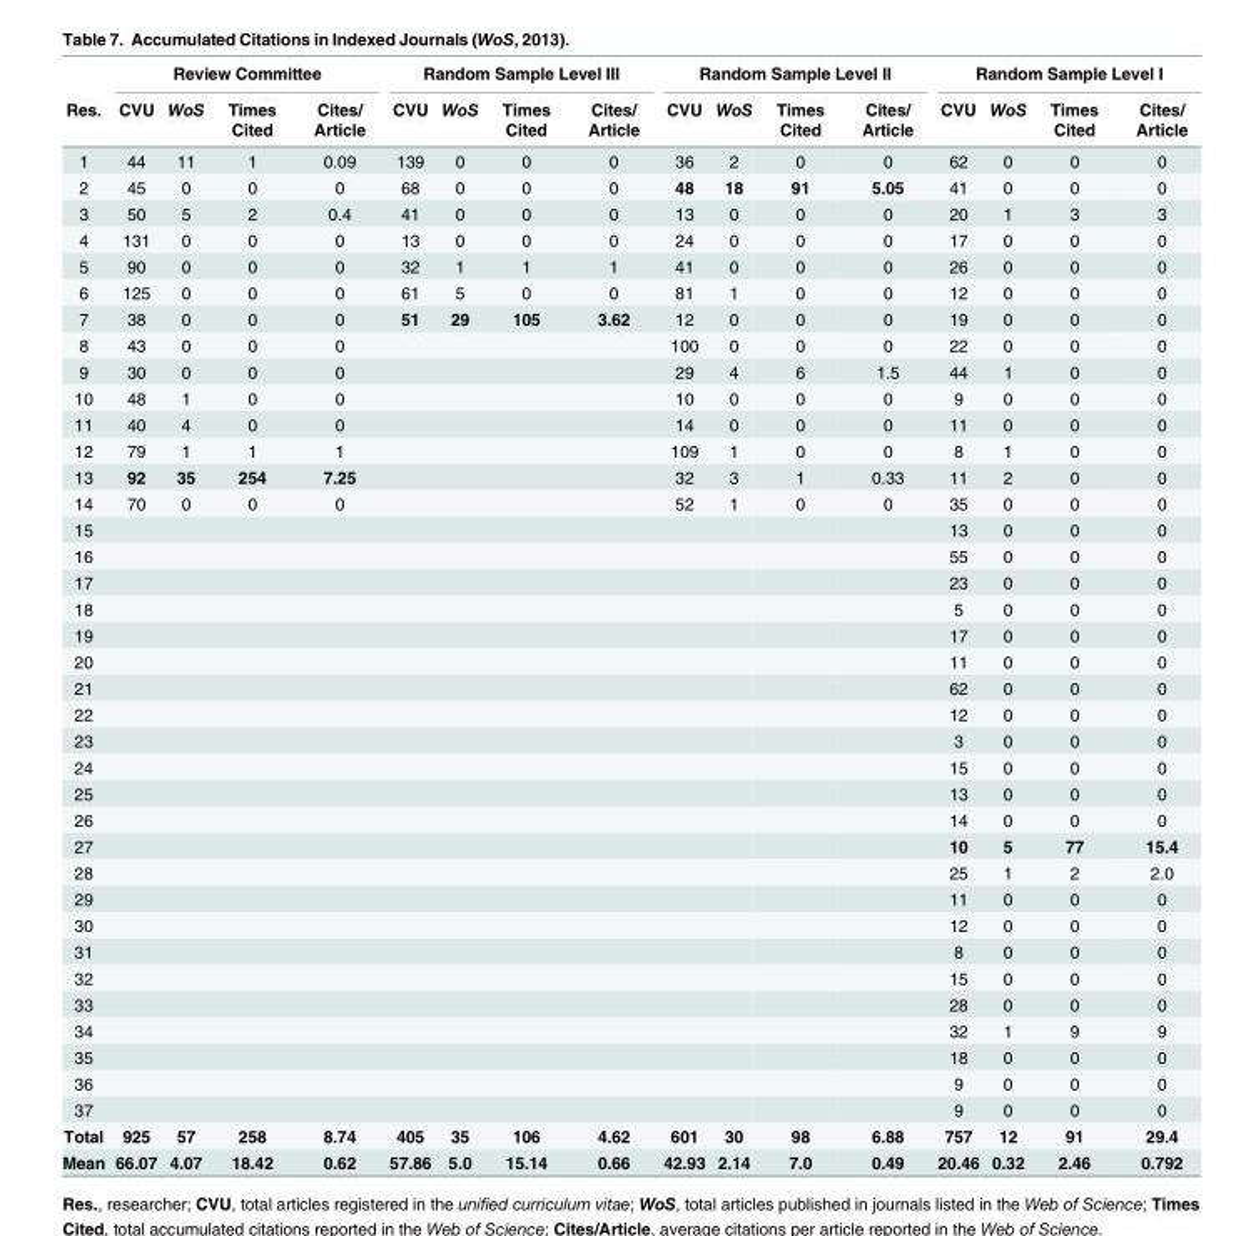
<table><thead><tr><td rowspan="2">Res.</td><td colspan="4">Review Committee</td><td colspan="4">Random Sample Level III</td><td colspan="4">Random Sample Level II</td><td colspan="4">Random Sample Level I</td></tr><tr><td>CVU</td><td>WoS</td><td>Times Cited</td><td>Cites/ Article</td><td>CVU</td><td>WoS</td><td>Times Cited</td><td>Cites/ Article</td><td>CVU</td><td>WoS</td><td>Times Cited</td><td>Cites/ Article</td><td>CVU</td><td>WoS</td><td>Times Cited</td><td>Cites/ Article</td></tr></thead><tbody><tr><td>1</td><td>44</td><td>11</td><td>1</td><td>0.09</td><td>139</td><td>0</td><td>0</td><td>0</td><td>36</td><td>2</td><td>0</td><td>0</td><td>62</td><td>0</td><td>0</td><td>0</td></tr><tr><td>2</td><td>45</td><td>0</td><td>0</td><td>0</td><td>68</td><td>0</td><td>0</td><td>0</td><td>48</td><td>18</td><td>91</td><td>5.05</td><td>41</td><td>0</td><td>0</td><td>0</td></tr><tr><td>3</td><td>50</td><td>5</td><td>2</td><td>0.4</td><td>41</td><td>0</td><td>0</td><td>0</td><td>13</td><td>0</td><td>0</td><td>0</td><td>20</td><td>1</td><td>3</td><td>3</td></tr><tr><td>4</td><td>131</td><td>0</td><td>0</td><td>0</td><td>13</td><td>0</td><td>0</td><td>0</td><td>24</td><td>0</td><td>0</td><td>0</td><td>17</td><td>0</td><td>0</td><td>0</td></tr><tr><td>5</td><td>90</td><td>0</td><td>0</td><td>0</td><td>32</td><td>1</td><td>1</td><td>1</td><td>41</td><td>0</td><td>0</td><td>0</td><td>26</td><td>0</td><td>0</td><td>0</td></tr><tr><td>6</td><td>125</td><td>0</td><td>0</td><td>0</td><td>61</td><td>5</td><td>0</td><td>0</td><td>81</td><td>1</td><td>0</td><td>0</td><td>12</td><td>0</td><td>0</td><td>0</td></tr><tr><td>7</td><td>38</td><td>0</td><td>0</td><td>0</td><td>51</td><td>29</td><td>105</td><td>3.62</td><td>12</td><td>0</td><td>0</td><td>0</td><td>19</td><td>0</td><td>0</td><td>0</td></tr><tr><td>8</td><td>43</td><td>0</td><td>0</td><td>0</td><td></td><td></td><td></td><td></td><td>100</td><td>0</td><td>0</td><td>0</td><td>22</td><td>0</td><td>0</td><td>0</td></tr><tr><td>9</td><td>30</td><td>0</td><td>0</td><td>0</td><td></td><td></td><td></td><td></td><td>29</td><td>4</td><td>6</td><td>1.5</td><td>44</td><td>1</td><td>0</td><td>0</td></tr><tr><td>10</td><td>48</td><td>1</td><td>0</td><td>0</td><td></td><td></td><td></td><td></td><td>10</td><td>0</td><td>0</td><td>0</td><td>9</td><td>0</td><td>0</td><td>0</td></tr><tr><td>11</td><td>40</td><td>4</td><td>0</td><td>0</td><td></td><td></td><td></td><td></td><td>14</td><td>0</td><td>0</td><td>0</td><td>11</td><td>0</td><td>0</td><td>0</td></tr><tr><td>12</td><td>79</td><td>1</td><td>1</td><td>1</td><td></td><td></td><td></td><td></td><td>109</td><td>1</td><td>0</td><td>0</td><td>8</td><td>1</td><td>0</td><td>0</td></tr><tr><td>13</td><td>92</td><td>35</td><td>254</td><td>7.25</td><td></td><td></td><td></td><td></td><td>32</td><td>3</td><td>1</td><td>0.33</td><td>11</td><td>2</td><td>0</td><td>0</td></tr><tr><td>14</td><td>70</td><td>0</td><td>0</td><td>0</td><td></td><td></td><td></td><td></td><td>52</td><td>1</td><td>0</td><td>0</td><td>35</td><td>0</td><td>0</td><td>0</td></tr><tr><td>15</td><td></td><td></td><td></td><td></td><td></td><td></td><td></td><td></td><td></td><td></td><td></td><td></td><td>13</td><td>0</td><td>0</td><td>0</td></tr><tr><td>16</td><td></td><td></td><td></td><td></td><td></td><td></td><td></td><td></td><td></td><td></td><td></td><td></td><td>55</td><td>0</td><td>0</td><td>0</td></tr><tr><td>17</td><td></td><td></td><td></td><td></td><td></td><td></td><td></td><td></td><td></td><td></td><td></td><td></td><td>23</td><td>0</td><td>0</td><td>0</td></tr><tr><td>18</td><td></td><td></td><td></td><td></td><td></td><td></td><td></td><td></td><td></td><td></td><td></td><td></td><td>5</td><td>0</td><td>0</td><td>0</td></tr><tr><td>19</td><td></td><td></td><td></td><td></td><td></td><td></td><td></td><td></td><td></td><td></td><td></td><td></td><td>17</td><td>0</td><td>0</td><td>0</td></tr><tr><td>20</td><td></td><td></td><td></td><td></td><td></td><td></td><td></td><td></td><td></td><td></td><td></td><td></td><td>11</td><td>0</td><td>0</td><td>0</td></tr><tr><td>21</td><td></td><td></td><td></td><td></td><td></td><td></td><td></td><td></td><td></td><td></td><td></td><td></td><td>62</td><td>0</td><td>0</td><td>0</td></tr><tr><td>22</td><td></td><td></td><td></td><td></td><td></td><td></td><td></td><td></td><td></td><td></td><td></td><td></td><td>12</td><td>0</td><td>0</td><td>0</td></tr><tr><td>23</td><td></td><td></td><td></td><td></td><td></td><td></td><td></td><td></td><td></td><td></td><td></td><td></td><td>3</td><td>0</td><td>0</td><td>0</td></tr><tr><td>24</td><td></td><td></td><td></td><td></td><td></td><td></td><td></td><td></td><td></td><td></td><td></td><td></td><td>15</td><td>0</td><td>0</td><td>0</td></tr><tr><td>25</td><td></td><td></td><td></td><td></td><td></td><td></td><td></td><td></td><td></td><td></td><td></td><td></td><td>13</td><td>0</td><td>0</td><td>0</td></tr><tr><td>26</td><td></td><td></td><td></td><td></td><td></td><td></td><td></td><td></td><td></td><td></td><td></td><td></td><td>14</td><td>0</td><td>0</td><td>0</td></tr><tr><td>27</td><td></td><td></td><td></td><td></td><td></td><td></td><td></td><td></td><td></td><td></td><td></td><td></td><td>10</td><td>5</td><td>77</td><td>15.4</td></tr><tr><td>28</td><td></td><td></td><td></td><td></td><td></td><td></td><td></td><td></td><td></td><td></td><td></td><td></td><td>25</td><td>1</td><td>2</td><td>2.0</td></tr><tr><td>29</td><td></td><td></td><td></td><td></td><td></td><td></td><td></td><td></td><td></td><td></td><td></td><td></td><td>11</td><td>0</td><td>0</td><td>0</td></tr><tr><td>30</td><td></td><td></td><td></td><td></td><td></td><td></td><td></td><td></td><td></td><td></td><td></td><td></td><td>12</td><td>0</td><td>0</td><td>0</td></tr><tr><td>31</td><td></td><td></td><td></td><td></td><td></td><td></td><td></td><td></td><td></td><td></td><td></td><td></td><td>8</td><td>0</td><td>0</td><td>0</td></tr><tr><td>32</td><td></td><td></td><td></td><td></td><td></td><td></td><td></td><td></td><td></td><td></td><td></td><td></td><td>15</td><td>0</td><td>0</td><td>0</td></tr><tr><td>33</td><td></td><td></td><td></td><td></td><td></td><td></td><td></td><td></td><td></td><td></td><td></td><td></td><td>28</td><td>0</td><td>0</td><td>0</td></tr><tr><td>34</td><td></td><td></td><td></td><td></td><td></td><td></td><td></td><td></td><td></td><td></td><td></td><td></td><td>32</td><td>1</td><td>9</td><td>9</td></tr><tr><td>35</td><td></td><td></td><td></td><td></td><td></td><td></td><td></td><td></td><td></td><td></td><td></td><td></td><td>18</td><td>0</td><td>0</td><td>0</td></tr><tr><td>36</td><td></td><td></td><td></td><td></td><td></td><td></td><td></td><td></td><td></td><td></td><td></td><td></td><td>9</td><td>0</td><td>0</td><td>0</td></tr><tr><td>37</td><td></td><td></td><td></td><td></td><td></td><td></td><td></td><td></td><td></td><td></td><td></td><td></td><td>9</td><td>0</td><td>0</td><td>0</td></tr><tr><td>Total</td><td>925</td><td>57</td><td>258</td><td>8.74</td><td>405</td><td>35</td><td>106</td><td>4.62</td><td>601</td><td>30</td><td>98</td><td>6.88</td><td>757</td><td>12</td><td>91</td><td>29.4</td></tr><tr><td>Mean</td><td>66.07</td><td>4.07</td><td>18.42</td><td>0.62</td><td>57.86</td><td>5.0</td><td>15.14</td><td>0.66</td><td>42.93</td><td>2.14</td><td>7.0</td><td>0.49</td><td>20.46</td><td>0.32</td><td>2.46</td><td>0.792</td></tr></tbody></table>